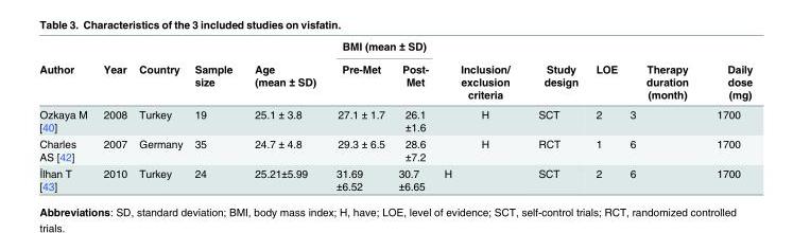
<table><thead><tr><td rowspan="2">Author</td><td rowspan="2">Year</td><td rowspan="2">Country</td><td rowspan="2">Sample size</td><td rowspan="2">Age (mean ± SD)</td><td colspan="2">BMI (mean ± SD)</td><td rowspan="2">Inclusion/ exclusion criteria</td><td rowspan="2">Study design</td><td rowspan="2">LOE</td><td rowspan="2">Therapy duration (month)</td><td rowspan="2">Daily dose (mg)</td></tr><tr><td>Pre-Met</td><td>Post- Met</td></tr></thead><tbody><tr><td>Ozkaya M [40]</td><td>2008</td><td>Turkey</td><td>19</td><td>25.1 ± 3.8</td><td>27.1 ± 1.7</td><td>26.1 ±1.6</td><td>H</td><td>SCT</td><td>2</td><td>3</td><td>1700</td></tr><tr><td>Charles AS [42]</td><td>2007</td><td>Germany</td><td>35</td><td>24.7 ± 4.8</td><td>29.3 ± 6.5</td><td>28.6 ±7.2</td><td>H</td><td>RCT</td><td>1</td><td>6</td><td>1700</td></tr><tr><td>İlhan T [43]</td><td>2010</td><td>Turkey</td><td>24</td><td>25.21±5.99</td><td>31.69 ±6.52</td><td>30.7 ±6.65</td><td>H</td><td>SCT</td><td>2</td><td>6</td><td>1700</td></tr></tbody></table>